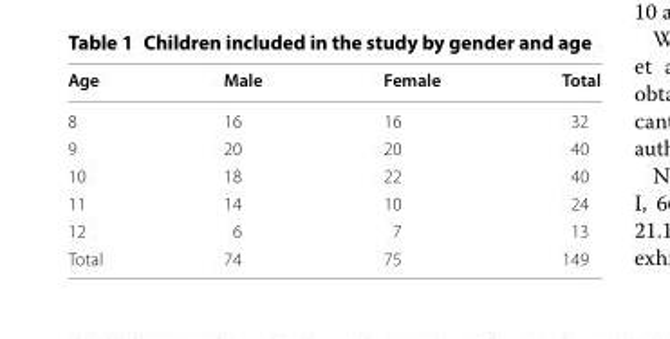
<table><thead><tr><td>Age</td><td>Male</td><td>Female</td><td>Total</td></tr></thead><tbody><tr><td>8</td><td>16</td><td>16</td><td>32</td></tr><tr><td>9</td><td>20</td><td>20</td><td>40</td></tr><tr><td>10</td><td>18</td><td>22</td><td>40</td></tr><tr><td>11</td><td>14</td><td>10</td><td>24</td></tr><tr><td>12</td><td>6</td><td>7</td><td>13</td></tr><tr><td>Total</td><td>74</td><td>75</td><td>149</td></tr></tbody></table>